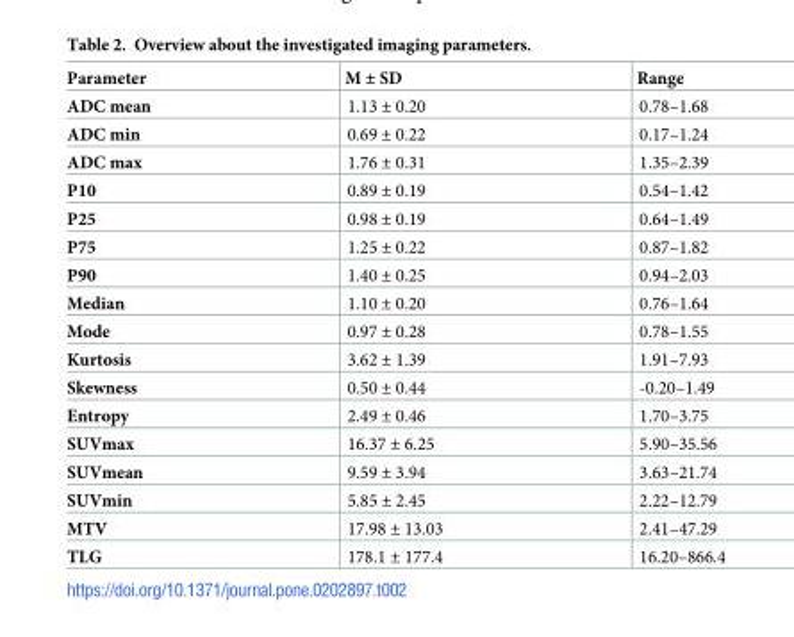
<table><thead><tr><td>Parameter</td><td>M ± SD</td><td>Range</td></tr></thead><tbody><tr><td>ADC mean</td><td>1.13 ± 0.20</td><td>0.78–1.68</td></tr><tr><td>ADC min</td><td>0.69 ± 0.22</td><td>0.17–1.24</td></tr><tr><td>ADC max</td><td>1.76 ± 0.31</td><td>1.35–2.39</td></tr><tr><td>P10</td><td>0.89 ± 0.19</td><td>0.54–1.42</td></tr><tr><td>P25</td><td>0.98 ± 0.19</td><td>0.64–1.49</td></tr><tr><td>P75</td><td>1.25 ± 0.22</td><td>0.87–1.82</td></tr><tr><td>P90</td><td>1.40 ± 0.25</td><td>0.94–2.03</td></tr><tr><td>Median</td><td>1.10 ± 0.20</td><td>0.76–1.64</td></tr><tr><td>Mode</td><td>0.97 ± 0.28</td><td>0.78–1.55</td></tr><tr><td>Kurtosis</td><td>3.62 ± 1.39</td><td>1.91–7.93</td></tr><tr><td>Skewness</td><td>0.50 ± 0.44</td><td>-0.20–1.49</td></tr><tr><td>Entropy</td><td>2.49 ± 0.46</td><td>1.70–3.75</td></tr><tr><td>SUVmax</td><td>16.37 ± 6.25</td><td>5.90–35.56</td></tr><tr><td>SUVmean</td><td>9.59 ± 3.94</td><td>3.63–21.74</td></tr><tr><td>SUVmin</td><td>5.85 ± 2.45</td><td>2.22–12.79</td></tr><tr><td>MTV</td><td>17.98 ± 13.03</td><td>2.41–47.29</td></tr><tr><td>TLG</td><td>178.1 ± 177.4</td><td>16.20–866.4</td></tr></tbody></table>